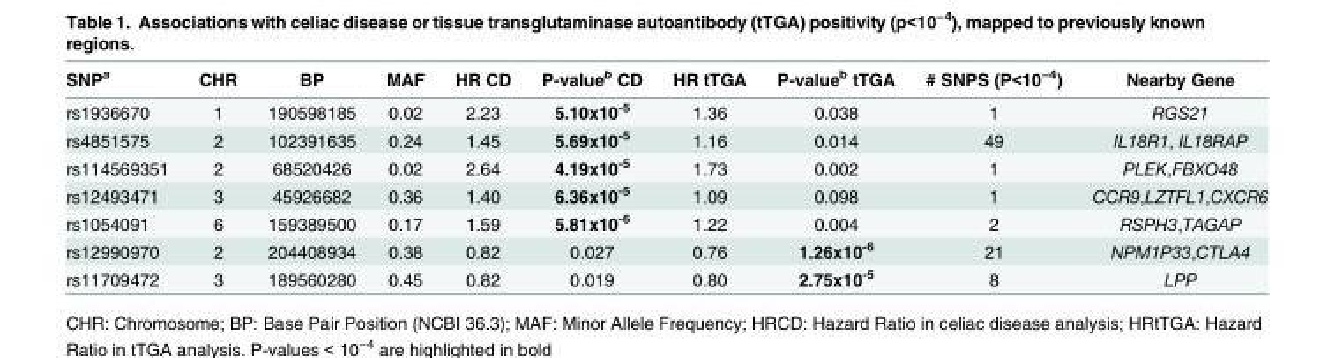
<table><thead><tr><td>SNP<sup>a</sup></td><td>CHR</td><td>BP</td><td>MAF</td><td>HR CD</td><td>P-value<sup>b</sup> CD</td><td>HR tTGA</td><td>P-value<sup>b</sup> tTGA</td><td># SNPS (P&lt;10<sup>−4</sup>)</td><td>Nearby Gene</td></tr></thead><tbody><tr><td>rs1936670</td><td>1</td><td>190598185</td><td>0.02</td><td>2.23</td><td>5.10x10<sup>-5</sup></td><td>1.36</td><td>0.038</td><td>1</td><td>RGS21</td></tr><tr><td>rs4851575</td><td>2</td><td>102391635</td><td>0.24</td><td>1.45</td><td>5.69x10<sup>-5</sup></td><td>1.16</td><td>0.014</td><td>49</td><td>IL18R1, IL18RAP</td></tr><tr><td>rs114569351</td><td>2</td><td>68520426</td><td>0.02</td><td>2.64</td><td>4.19x10<sup>-5</sup></td><td>1.73</td><td>0.002</td><td>1</td><td>PLEK,FBXO48</td></tr><tr><td>rs12493471</td><td>3</td><td>45926682</td><td>0.36</td><td>1.40</td><td>6.36x10<sup>-5</sup></td><td>1.09</td><td>0.098</td><td>1</td><td>CCR9,LZTFL1,CXCR6</td></tr><tr><td>rs1054091</td><td>6</td><td>159389500</td><td>0.17</td><td>1.59</td><td>5.81x10<sup>-6</sup></td><td>1.22</td><td>0.004</td><td>2</td><td>RSPH3,TAGAP</td></tr><tr><td>rs12990970</td><td>2</td><td>204408934</td><td>0.38</td><td>0.82</td><td>0.027</td><td>0.76</td><td>1.26x10<sup>-6</sup></td><td>21</td><td>NPM1P33,CTLA4</td></tr><tr><td>rs11709472</td><td>3</td><td>189560280</td><td>0.45</td><td>0.82</td><td>0.019</td><td>0.80</td><td>2.75x10<sup>-5</sup></td><td>8</td><td>LPP</td></tr></tbody></table>